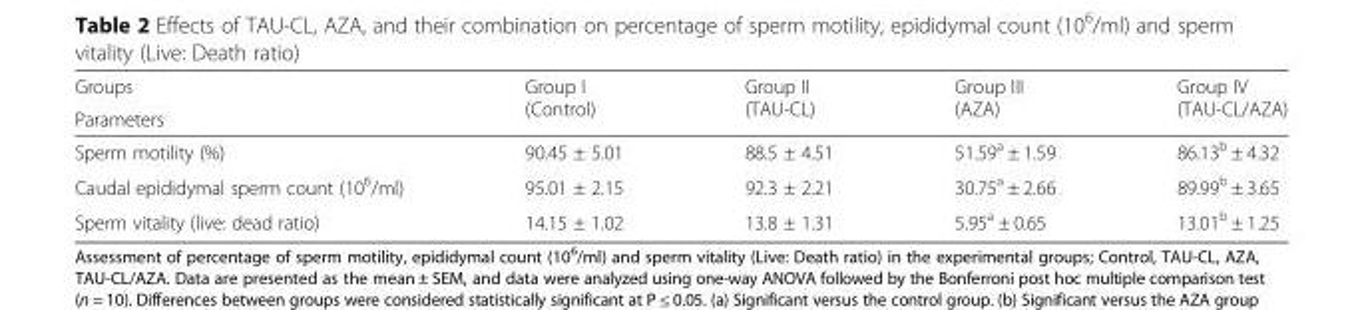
<table><thead><tr><td rowspan="2">Groups Parameters</td><td rowspan="2">Group I (Control)</td><td rowspan="2">Group II (TAU-CL)</td><td rowspan="2">Group III (AZA)</td><td rowspan="2">Group IV (TAU-CL/AZA)</td></tr><tr></tr></thead><tbody><tr><td>Sperm motility (%)</td><td>90.45 ± 5.01</td><td>88.5 ± 4.51</td><td>51.59<sup>a</sup> ± 1.59</td><td>86.13<sup>b</sup> ± 4.32</td></tr><tr><td>Caudal epididymal sperm count (10<sup>6</sup>/ml)</td><td>95.01 ± 2.15</td><td>92.3 ± 2.21</td><td>30.75<sup>a</sup> ± 2.66</td><td>89.99<sup>b</sup> ± 3.65</td></tr><tr><td>Sperm vitality (live: dead ratio)</td><td>14.15 ± 1.02</td><td>13.8 ± 1.31</td><td>5.95<sup>a</sup> ± 0.65</td><td>13.01<sup>b</sup> ± 1.25</td></tr></tbody></table>